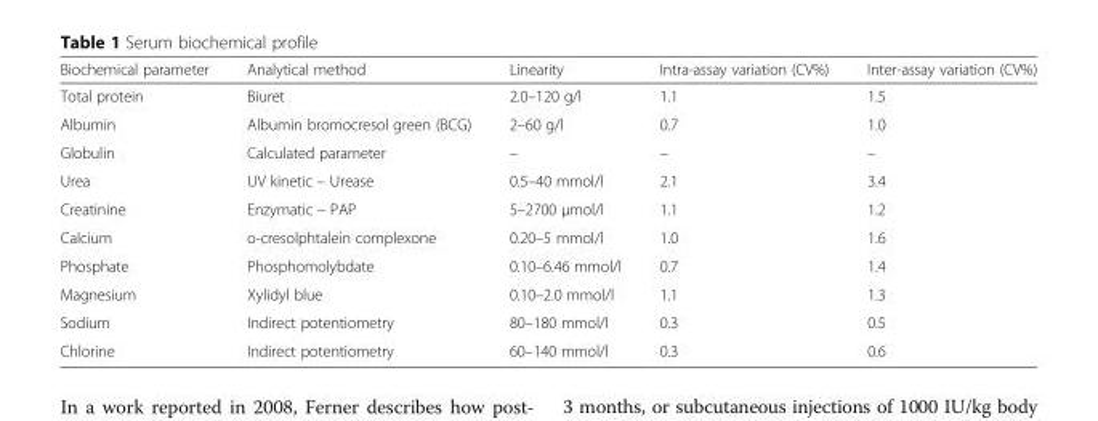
<table><thead><tr><td>Biochemical parameter</td><td>Analytical method</td><td>Linearity</td><td>Intra-assay variation (CV%)</td><td>Inter-assay variation (CV%)</td></tr></thead><tbody><tr><td>Total protein</td><td>Biuret</td><td>2.0–120 g/l</td><td>1.1</td><td>1.5</td></tr><tr><td>Albumin</td><td>Albumin bromocresol green (BCG)</td><td>2–60 g/l</td><td>0.7</td><td>1.0</td></tr><tr><td>Globulin</td><td>Calculated parameter</td><td>–</td><td>–</td><td>–</td></tr><tr><td>Urea</td><td>UV kinetic – Urease</td><td>0.5–40 mmol/l</td><td>2.1</td><td>3.4</td></tr><tr><td>Creatinine</td><td>Enzymatic – PAP</td><td>5–2700 μmol/l</td><td>1.1</td><td>1.2</td></tr><tr><td>Calcium</td><td>o-cresolphtalein complexone</td><td>0.20–5 mmol/l</td><td>1.0</td><td>1.6</td></tr><tr><td>Phosphate</td><td>Phosphomolybdate</td><td>0.10–6.46 mmol/l</td><td>0.7</td><td>1.4</td></tr><tr><td>Magnesium</td><td>Xylidyl blue</td><td>0.10–2.0 mmol/l</td><td>1.1</td><td>1.3</td></tr><tr><td>Sodium</td><td>Indirect potentiometry</td><td>80–180 mmol/l</td><td>0.3</td><td>0.5</td></tr><tr><td>Chlorine</td><td>Indirect potentiometry</td><td>60–140 mmol/l</td><td>0.3</td><td>0.6</td></tr></tbody></table>